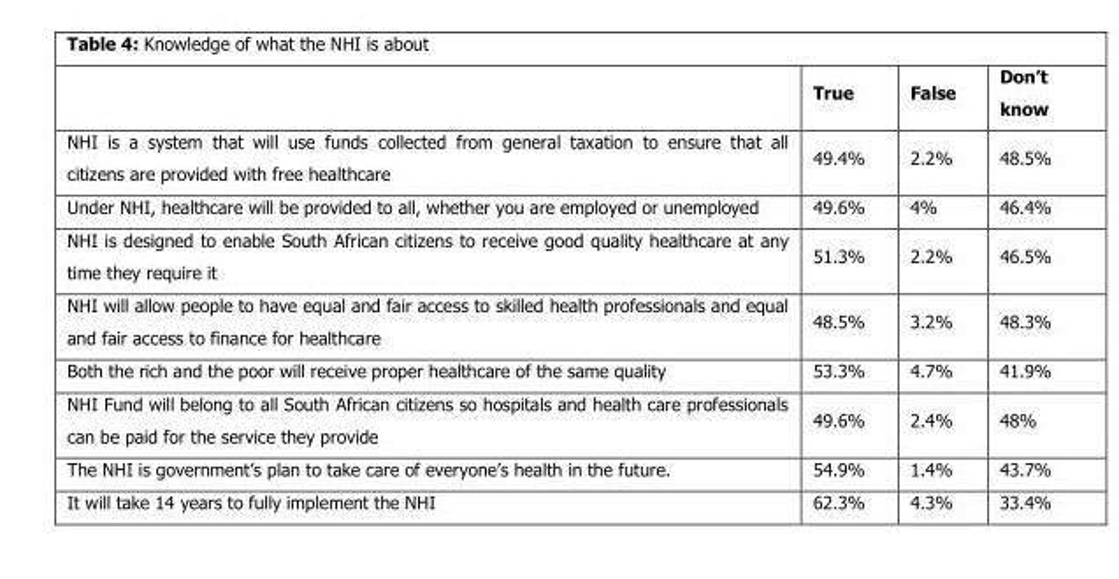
<table><thead><tr><td></td><td>True</td><td>False</td><td>Don’t know</td></tr></thead><tbody><tr><td>NHI is a system that will use funds collected from general taxation to ensure that all citizens are provided with free healthcare</td><td>49.4%</td><td>2.2%</td><td>48.5%</td></tr><tr><td>Under NHI, healthcare will be provided to all, whether you are employed or unemployed</td><td>49.6%</td><td>4%</td><td>46.4%</td></tr><tr><td>NHI is designed to enable South African citizens to receive good quality healthcare at any time they require it</td><td>51.3%</td><td>2.2%</td><td>46.5%</td></tr><tr><td>NHI will allow people to have equal and fair access to skilled health professionals and equal and fair access to finance for healthcare</td><td>48.5%</td><td>3.2%</td><td>48.3%</td></tr><tr><td>Both the rich and the poor will receive proper healthcare of the same quality</td><td>53.3%</td><td>4.7%</td><td>41.9%</td></tr><tr><td>NHI Fund will belong to all South African citizens so hospitals and health care professionals can be paid for the service they provide</td><td>49.6%</td><td>2.4%</td><td>48%</td></tr><tr><td>The NHI is government’s plan to take care of everyone’s health in the future.</td><td>54.9%</td><td>1.4%</td><td>43.7%</td></tr><tr><td>It will take 14 years to fully implement the NHI</td><td>62.3%</td><td>4.3%</td><td>33.4%</td></tr></tbody></table>